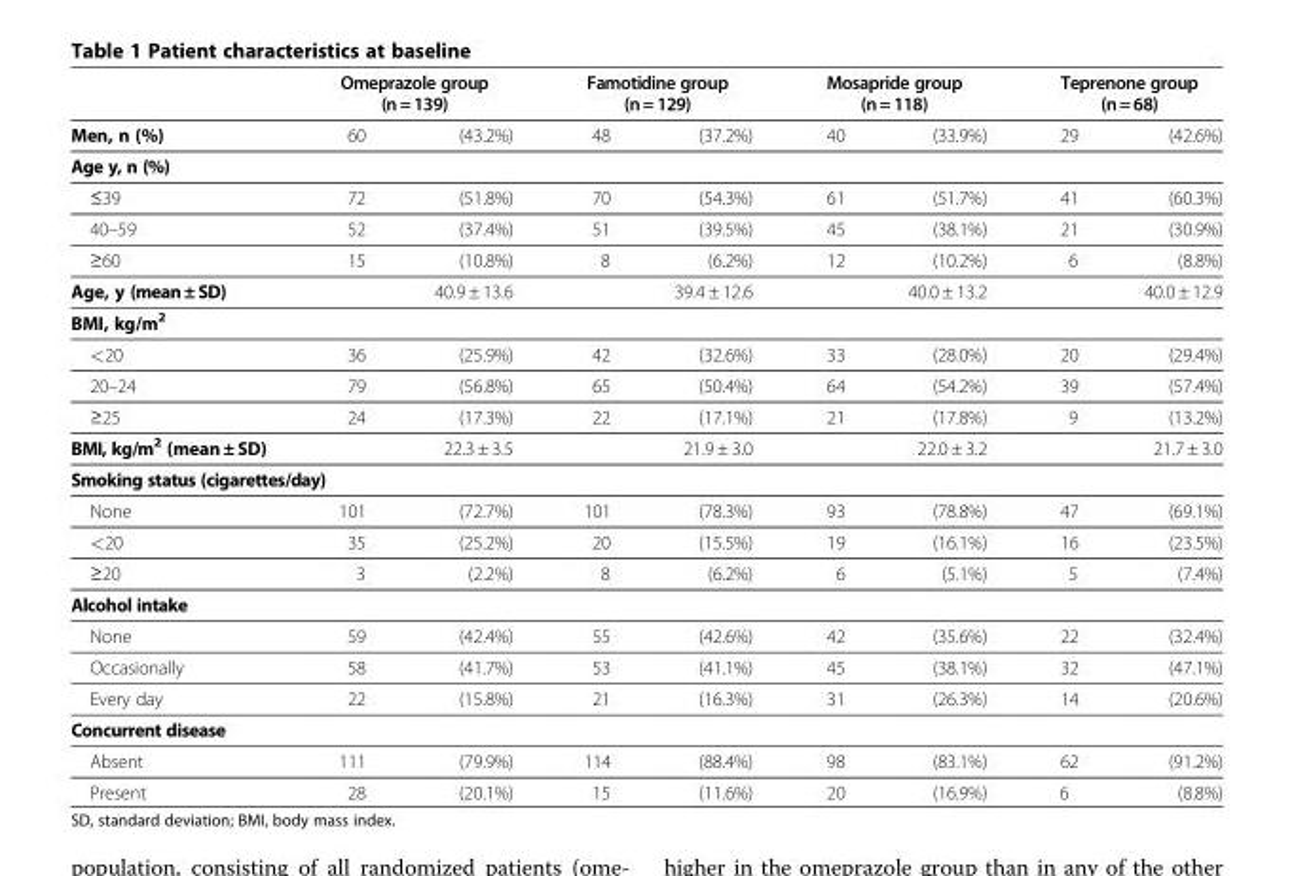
<table><thead><tr><td rowspan="2">Men, n (%)</td><td colspan="2">Omeprazole group (n=139)</td><td colspan="2">Famotidine group (n=129)</td><td colspan="2">Mosapride group (n=118)</td><td colspan="2">Teprenone group (n=68)</td></tr><tr><td>60</td><td>(43.2%)</td><td>48</td><td>(37.2%)</td><td>40</td><td>(33.9%)</td><td>29</td><td>(42.6%)</td></tr></thead><tbody><tr><td colspan="9">Age y, n (%)</td></tr><tr><td>≤39</td><td>72</td><td>(51.8%)</td><td>70</td><td>(54.3%)</td><td>61</td><td>(51.7%)</td><td>41</td><td>(60.3%)</td></tr><tr><td>40–59</td><td>52</td><td>(37.4%)</td><td>51</td><td>(39.5%)</td><td>45</td><td>(38.1%)</td><td>21</td><td>(30.9%)</td></tr><tr><td>≥60</td><td>15</td><td>(10.8%)</td><td>8</td><td>(6.2%)</td><td>12</td><td>(10.2%)</td><td>6</td><td>(8.8%)</td></tr><tr><td>Age, y (mean±SD)</td><td colspan="2">40.9 ± 13.6</td><td colspan="2">39.4 ± 12.6</td><td colspan="2">40.0 ± 13.2</td><td colspan="2">40.0 ± 12.9</td></tr><tr><td colspan="9">BMI, kg/m<sup>2</sup></td></tr><tr><td>&lt;20</td><td>36</td><td>(25.9%)</td><td>42</td><td>(32.6%)</td><td>33</td><td>(28.0%)</td><td>20</td><td>(29.4%)</td></tr><tr><td>20–24</td><td>79</td><td>(56.8%)</td><td>65</td><td>(50.4%)</td><td>64</td><td>(54.2%)</td><td>39</td><td>(57.4%)</td></tr><tr><td>≥25</td><td>24</td><td>(17.3%)</td><td>22</td><td>(17.1%)</td><td>21</td><td>(17.8%)</td><td>9</td><td>(13.2%)</td></tr><tr><td>BMI, kg/m<sup>2</sup> (mean ± SD)</td><td colspan="2">22.3 ± 3.5</td><td colspan="2">21.9 ± 3.0</td><td colspan="2">22.0 ± 3.2</td><td colspan="2">21.7 ± 3.0</td></tr><tr><td colspan="9">Smoking status (cigarettes/day)</td></tr><tr><td>None</td><td>101</td><td>(72.7%)</td><td>101</td><td>(78.3%)</td><td>93</td><td>(78.8%)</td><td>47</td><td>(69.1%)</td></tr><tr><td>&lt;20</td><td>35</td><td>(25.2%)</td><td>20</td><td>(15.5%)</td><td>19</td><td>(16.1%)</td><td>16</td><td>(23.5%)</td></tr><tr><td>≥20</td><td>3</td><td>(2.2%)</td><td>8</td><td>(6.2%)</td><td>6</td><td>(5.1%)</td><td>5</td><td>(7.4%)</td></tr><tr><td colspan="9">Alcohol intake</td></tr><tr><td>None</td><td>59</td><td>(42.4%)</td><td>55</td><td>(42.6%)</td><td>42</td><td>(35.6%)</td><td>22</td><td>(32.4%)</td></tr><tr><td>Occasionally</td><td>58</td><td>(41.7%)</td><td>53</td><td>(41.1%)</td><td>45</td><td>(38.1%)</td><td>32</td><td>(47.1%)</td></tr><tr><td>Every day</td><td>22</td><td>(15.8%)</td><td>21</td><td>(16.3%)</td><td>31</td><td>(26.3%)</td><td>14</td><td>(20.6%)</td></tr><tr><td colspan="9">Concurrent disease</td></tr><tr><td>Absent</td><td>111</td><td>(79.9%)</td><td>114</td><td>(88.4%)</td><td>98</td><td>(83.1%)</td><td>62</td><td>(91.2%)</td></tr><tr><td>Present</td><td>28</td><td>(20.1%)</td><td>15</td><td>(11.6%)</td><td>20</td><td>(16.9%)</td><td>6</td><td>(8.8%)</td></tr></tbody></table>